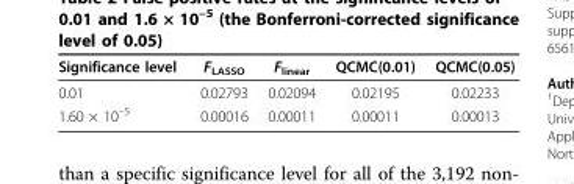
<table><thead><tr><td>Significance level</td><td>F<sub>LASSO</sub></td><td>F<sub>linear</sub></td><td>QCMC(0.01)</td><td>QCMC(0.05)</td></tr></thead><tbody><tr><td>0.01</td><td>0.02793</td><td>0.02094</td><td>0.02195</td><td>0.02233</td></tr><tr><td>1.60 × 10<sup>–5</sup></td><td>0.00016</td><td>0.00011</td><td>0.00011</td><td>0.00013</td></tr></tbody></table>